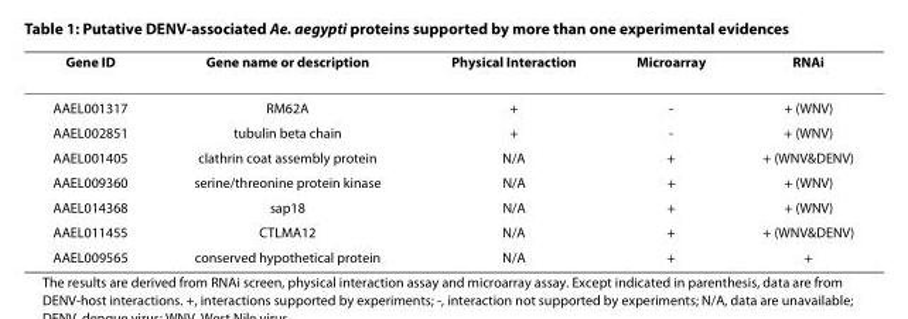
<table><thead><tr><td>Gene ID</td><td>Gene name or description</td><td>Physical Interaction</td><td>Microarray</td><td>RNAi</td></tr></thead><tbody><tr><td>AAEL001317</td><td>RM62A</td><td>+</td><td>-</td><td>+ (WNV)</td></tr><tr><td>AAEL002851</td><td>tubulin beta chain</td><td>+</td><td>-</td><td>+ (WNV)</td></tr><tr><td>AAEL001405</td><td>clathrin coat assembly protein</td><td>N/A</td><td>+</td><td>+ (WNV&amp;DENV)</td></tr><tr><td>AAEL009360</td><td>serine/threonine protein kinase</td><td>N/A</td><td>+</td><td>+ (WNV)</td></tr><tr><td>AAEL014368</td><td>sap18</td><td>N/A</td><td>+</td><td>+ (WNV)</td></tr><tr><td>AAEL011455</td><td>CTLMA12</td><td>N/A</td><td>+</td><td>+ (WNV&amp;DENV)</td></tr><tr><td>AAEL009565</td><td>conserved hypothetical protein</td><td>N/A</td><td>+</td><td>+</td></tr></tbody></table>